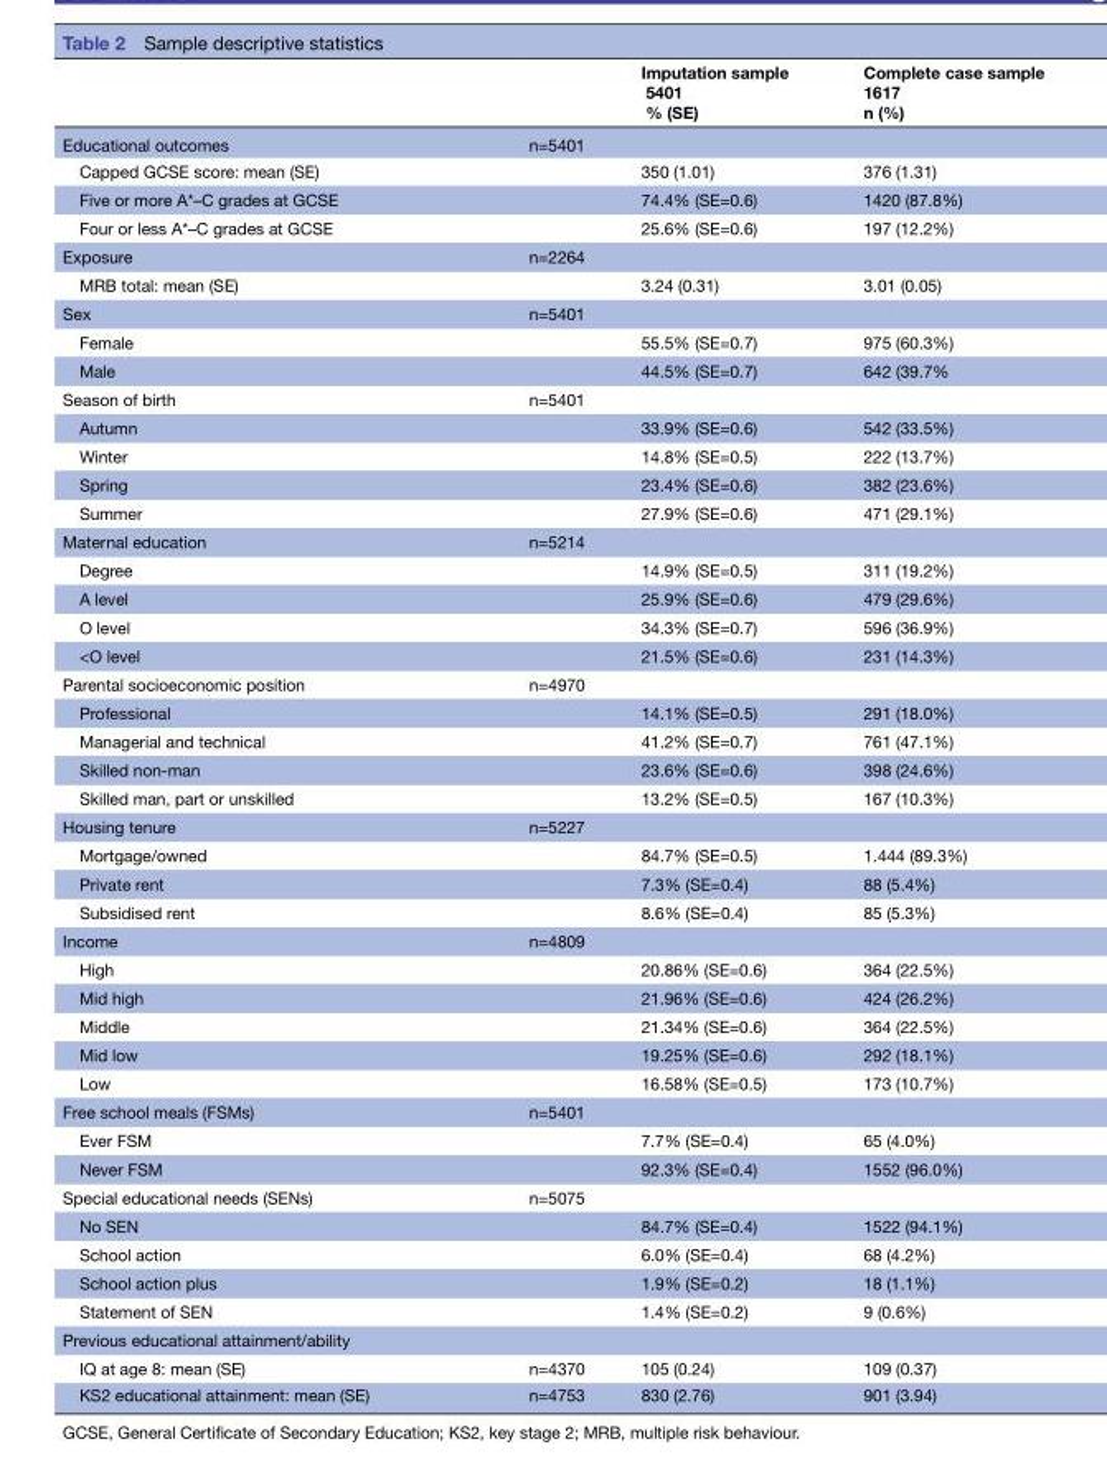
<table><thead><tr><td></td><td></td><td>Imputation sample 5401 % (SE)</td><td>Complete case sample 1617 n (%)</td></tr></thead><tbody><tr><td>Educational outcomes</td><td>n=5401</td><td></td><td></td></tr><tr><td>Capped GCSE score: mean (SE)</td><td></td><td>350 (1.01)</td><td>376 (1.31)</td></tr><tr><td>Five or more A*–C grades at GCSE</td><td></td><td>74.4% (SE=0.6)</td><td>1420 (87.8%)</td></tr><tr><td>Four or less A*–C grades at GCSE</td><td></td><td>25.6% (SE=0.6)</td><td>197 (12.2%)</td></tr><tr><td>Exposure</td><td>n=2264</td><td></td><td></td></tr><tr><td>MRB total: mean (SE)</td><td></td><td>3.24 (0.31)</td><td>3.01 (0.05)</td></tr><tr><td>Sex</td><td>n=5401</td><td></td><td></td></tr><tr><td>Female</td><td></td><td>55.5% (SE=0.7)</td><td>975 (60.3%)</td></tr><tr><td>Male</td><td></td><td>44.5% (SE=0.7)</td><td>642 (39.7%</td></tr><tr><td>Season of birth</td><td>n=5401</td><td></td><td></td></tr><tr><td>Autumn</td><td></td><td>33.9% (SE=0.6)</td><td>542 (33.5%)</td></tr><tr><td>Winter</td><td></td><td>14.8% (SE=0.5)</td><td>222 (13.7%)</td></tr><tr><td>Spring</td><td></td><td>23.4% (SE=0.6)</td><td>382 (23.6%)</td></tr><tr><td>Summer</td><td></td><td>27.9% (SE=0.6)</td><td>471 (29.1%)</td></tr><tr><td>Maternal education</td><td>n=5214</td><td></td><td></td></tr><tr><td>Degree</td><td></td><td>14.9% (SE=0.5)</td><td>311 (19.2%)</td></tr><tr><td>A level</td><td></td><td>25.9% (SE=0.6)</td><td>479 (29.6%)</td></tr><tr><td>O level</td><td></td><td>34.3% (SE=0.7)</td><td>596 (36.9%)</td></tr><tr><td>&lt;O level</td><td></td><td>21.5% (SE=0.6)</td><td>231 (14.3%)</td></tr><tr><td>Parental socioeconomic position</td><td>n=4970</td><td></td><td></td></tr><tr><td>Professional</td><td></td><td>14.1% (SE=0.5)</td><td>291 (18.0%)</td></tr><tr><td>Managerial and technical</td><td></td><td>41.2% (SE=0.7)</td><td>761 (47.1%)</td></tr><tr><td>Skilled non-man</td><td></td><td>23.6% (SE=0.6)</td><td>398 (24.6%)</td></tr><tr><td>Skilled man, part or unskilled</td><td></td><td>13.2% (SE=0.5)</td><td>167 (10.3%)</td></tr><tr><td>Housing tenure</td><td>n=5227</td><td></td><td></td></tr><tr><td>Mortgage/owned</td><td></td><td>84.7% (SE=0.5)</td><td>1.444 (89.3%)</td></tr><tr><td>Private rent</td><td></td><td>7.3% (SE=0.4)</td><td>88 (5.4%)</td></tr><tr><td>Subsidised rent</td><td></td><td>8.6% (SE=0.4)</td><td>85 (5.3%)</td></tr><tr><td>Income</td><td>n=4809</td><td></td><td></td></tr><tr><td>High</td><td></td><td>20.86% (SE=0.6)</td><td>364 (22.5%)</td></tr><tr><td>Mid high</td><td></td><td>21.96% (SE=0.6)</td><td>424 (26.2%)</td></tr><tr><td>Middle</td><td></td><td>21.34% (SE=0.6)</td><td>364 (22.5%)</td></tr><tr><td>Mid low</td><td></td><td>19.25% (SE=0.6)</td><td>292 (18.1%)</td></tr><tr><td>Low</td><td></td><td>16.58% (SE=0.5)</td><td>173 (10.7%)</td></tr><tr><td>Free school meals (FSMs)</td><td>n=5401</td><td></td><td></td></tr><tr><td>Ever FSM</td><td></td><td>7.7% (SE=0.4)</td><td>65 (4.0%)</td></tr><tr><td>Never FSM</td><td></td><td>92.3% (SE=0.4)</td><td>1552 (96.0%)</td></tr><tr><td>Special educational needs (SENs)</td><td>n=5075</td><td></td><td></td></tr><tr><td>No SEN</td><td></td><td>84.7% (SE=0.4)</td><td>1522 (94.1%)</td></tr><tr><td>School action</td><td></td><td>6.0% (SE=0.4)</td><td>68 (4.2%)</td></tr><tr><td>School action plus</td><td></td><td>1.9% (SE=0.2)</td><td>18 (1.1%)</td></tr><tr><td>Statement of SEN</td><td></td><td>1.4% (SE=0.2)</td><td>9 (0.6%)</td></tr><tr><td colspan="4">Previous educational attainment/ability</td></tr><tr><td>IQ at age 8: mean (SE)</td><td>n=4370</td><td>105 (0.24)</td><td>109 (0.37)</td></tr><tr><td>KS2 educational attainment: mean (SE)</td><td>n=4753</td><td>830 (2.76)</td><td>901 (3.94)</td></tr></tbody></table>